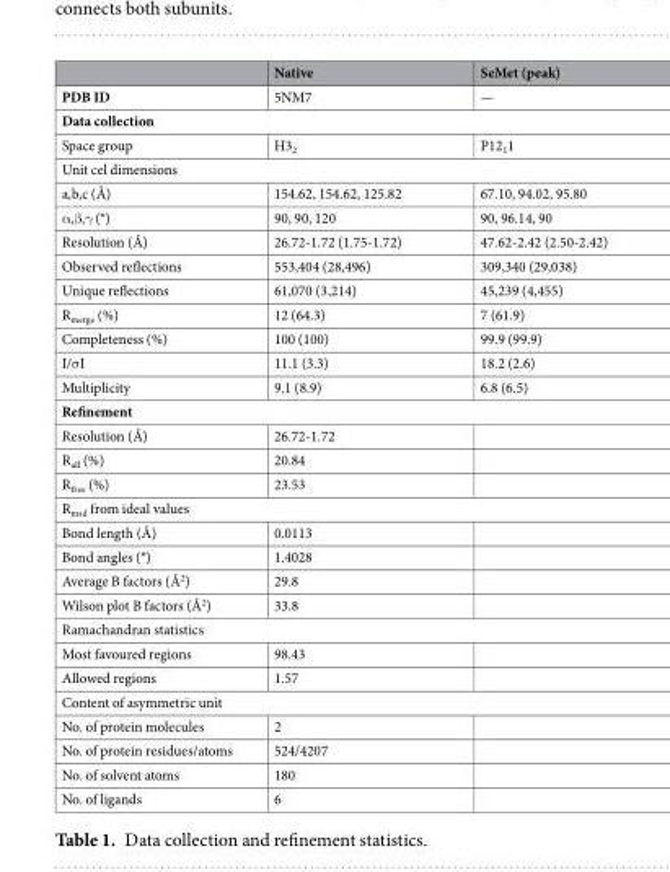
<table><thead><tr><td></td><td>Native</td><td>SeMet (peak)</td></tr></thead><tbody><tr><td>PDB ID</td><td>5NM7</td><td>—</td></tr><tr><td colspan="3">Data collection</td></tr><tr><td>Space group</td><td>H3<sub>2</sub></td><td>P12<sub>1</sub>1</td></tr><tr><td colspan="3">Unit cel dimensions</td></tr><tr><td>a,b,c (Å)</td><td>154.62, 154.62, 125.82</td><td>67.10, 94.02, 95.80</td></tr><tr><td>α,β,γ (°)</td><td>90, 90, 120</td><td>90, 96.14, 90</td></tr><tr><td>Resolution (Å)</td><td>26.72-1.72 (1.75-1.72)</td><td>47.62-2.42 (2.50-2.42)</td></tr><tr><td>Observed reflections</td><td>553,404 (28,496)</td><td>309,340 (29,038)</td></tr><tr><td>Unique reflections</td><td>61,070 (3,214)</td><td>45,239 (4,455)</td></tr><tr><td>R<sub>merge</sub> (%)</td><td>12 (64.3)</td><td>7 (61.9)</td></tr><tr><td>Completeness (%)</td><td>100 (100)</td><td>99.9 (99.9)</td></tr><tr><td>I/σI</td><td>11.1 (3.3)</td><td>18.2 (2.6)</td></tr><tr><td>Multiplicity</td><td>9.1 (8.9)</td><td>6.8 (6.5)</td></tr><tr><td colspan="3">Refinement</td></tr><tr><td>Resolution (Å)</td><td>26.72-1.72</td><td></td></tr><tr><td>R<sub>all</sub> (%)</td><td>20.84</td><td></td></tr><tr><td>R<sub>free</sub> (%)</td><td>23.53</td><td></td></tr><tr><td colspan="3">R<sub>msd</sub> from ideal values</td></tr><tr><td>Bond length (Å)</td><td>0.0113</td><td></td></tr><tr><td>Bond angles (°)</td><td>1.4028</td><td></td></tr><tr><td>Average B factors (Å<sup>2</sup>)</td><td>29.8</td><td></td></tr><tr><td>Wilson plot B factors (Å<sup>2</sup>)</td><td>33.8</td><td></td></tr><tr><td colspan="3">Ramachandran statistics</td></tr><tr><td>Most favoured regions</td><td>98.43</td><td></td></tr><tr><td>Allowed regions</td><td>1.57</td><td></td></tr><tr><td colspan="3">Content of asymmetric unit</td></tr><tr><td>No. of protein molecules</td><td>2</td><td></td></tr><tr><td>No. of protein residues/atoms</td><td>524/4207</td><td></td></tr><tr><td>No. of solvent atoms</td><td>180</td><td></td></tr><tr><td>No. of ligands</td><td>6</td><td></td></tr></tbody></table>